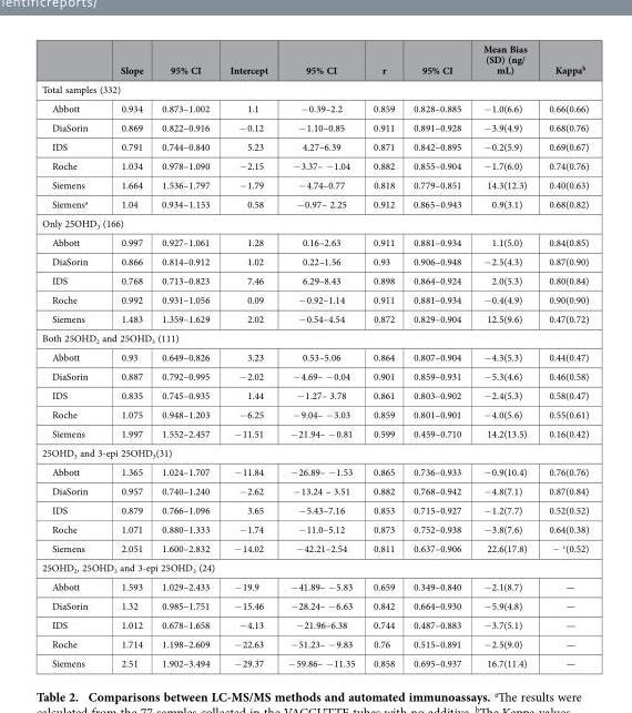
<table><thead><tr><td></td><td>Slope</td><td>95% CI</td><td>Intercept</td><td>95% CI</td><td>r</td><td>95% CI</td><td>Mean Bias (SD) (ng/ mL)</td><td>Kappa<sup>b</sup></td></tr></thead><tbody><tr><td colspan="9">Total samples (332)</td></tr><tr><td>Abbott</td><td>0.934</td><td>0.873–1.002</td><td>1.1</td><td>− 0.39–2.2</td><td>0.859</td><td>0.828–0.885</td><td>− 1.0(6.6)</td><td>0.66(0.66)</td></tr><tr><td>DiaSorin</td><td>0.869</td><td>0.822–0.916</td><td>− 0.12</td><td>− 1.10–0.85</td><td>0.911</td><td>0.891–0.928</td><td>− 3.9(4.9)</td><td>0.68(0.76)</td></tr><tr><td>IDS</td><td>0.791</td><td>0.744–0.840</td><td>5.23</td><td>4.27–6.39</td><td>0.871</td><td>0.842–0.895</td><td>− 0.2(5.9)</td><td>0.69(0.67)</td></tr><tr><td>Roche</td><td>1.034</td><td>0.978–1.090</td><td>− 2.15</td><td>− 3.37– − 1.04</td><td>0.882</td><td>0.855–0.904</td><td>− 1.7(6.0)</td><td>0.74(0.76)</td></tr><tr><td>Siemens</td><td>1.664</td><td>1.536–1.797</td><td>− 1.79</td><td>− 4.74–0.77</td><td>0.818</td><td>0.779–0.851</td><td>14.3(12.3)</td><td>0.40(0.63)</td></tr><tr><td>Siemens<sup>a</sup></td><td>1.04</td><td>0.934~1.153</td><td>0.58</td><td>− 0.97~ 2.25</td><td>0.912</td><td>0.865~0.943</td><td>0.9(3.1)</td><td>0.68(0.82)</td></tr><tr><td colspan="9">Only 25OHD<sub>3</sub> (166)</td></tr><tr><td>Abbott</td><td>0.997</td><td>0.927–1.061</td><td>1.28</td><td>0.16–2.63</td><td>0.911</td><td>0.881–0.934</td><td>1.1(5.0)</td><td>0.84(0.85)</td></tr><tr><td>DiaSorin</td><td>0.866</td><td>0.814–0.912</td><td>1.02</td><td>0.22–1.56</td><td>0.93</td><td>0.906–0.948</td><td>− 2.5(4.3)</td><td>0.87(0.90)</td></tr><tr><td>IDS</td><td>0.768</td><td>0.713–0.823</td><td>7.46</td><td>6.29–8.43</td><td>0.898</td><td>0.864–0.924</td><td>2.0(5.3)</td><td>0.80(0.84)</td></tr><tr><td>Roche</td><td>0.992</td><td>0.931–1.056</td><td>0.09</td><td>− 0.92–1.14</td><td>0.911</td><td>0.881–0.934</td><td>− 0.4(4.9)</td><td>0.90(0.90)</td></tr><tr><td>Siemens</td><td>1.483</td><td>1.359–1.629</td><td>2.02</td><td>− 0.54–4.54</td><td>0.872</td><td>0.829–0.904</td><td>12.5(9.6)</td><td>0.47(0.72)</td></tr><tr><td colspan="9">Both 25OHD<sub>2</sub> and 25OHD<sub>3</sub> (111)</td></tr><tr><td>Abbott</td><td>0.93</td><td>0.649–0.826</td><td>3.23</td><td>0.53–5.06</td><td>0.864</td><td>0.807–0.904</td><td>− 4.3(5.3)</td><td>0.44(0.47)</td></tr><tr><td>DiaSorin</td><td>0.887</td><td>0.792–0.995</td><td>− 2.02</td><td>− 4.69– − 0.04</td><td>0.901</td><td>0.859–0.931</td><td>− 5.3(4.6)</td><td>0.46(0.58)</td></tr><tr><td>IDS</td><td>0.835</td><td>0.745–0.935</td><td>1.44</td><td>− 1.27– 3.78</td><td>0.861</td><td>0.803–0.902</td><td>− 2.4(5.3)</td><td>0.58(0.47)</td></tr><tr><td>Roche</td><td>1.075</td><td>0.948–1.203</td><td>− 6.25</td><td>− 9.04– − 3.03</td><td>0.859</td><td>0.801–0.901</td><td>− 4.0(5.6)</td><td>0.55(0.61)</td></tr><tr><td>Siemens</td><td>1.997</td><td>1.552–2.457</td><td>− 11.51</td><td>− 21.94– − 0.81</td><td>0.599</td><td>0.459–0.710</td><td>14.2(13.5)</td><td>0.16(0.42)</td></tr><tr><td colspan="9">25OHD<sub>3</sub> and 3-epi 25OHD<sub>3</sub>(31)</td></tr><tr><td>Abbott</td><td>1.365</td><td>1.024–1.707</td><td>− 11.84</td><td>− 26.89– − 1.53</td><td>0.865</td><td>0.736–0.933</td><td>− 0.9(10.4)</td><td>0.76(0.76)</td></tr><tr><td>DiaSorin</td><td>0.957</td><td>0.740–1.240</td><td>− 2.62</td><td>− 13.24 – 3.51</td><td>0.882</td><td>0.768–0.942</td><td>− 4.8(7.1)</td><td>0.87(0.84)</td></tr><tr><td>IDS</td><td>0.879</td><td>0.766–1.096</td><td>3.65</td><td>− 5.43–7.16</td><td>0.853</td><td>0.715–0.927</td><td>− 1.2(7.7)</td><td>0.52(0.52)</td></tr><tr><td>Roche</td><td>1.071</td><td>0.880–1.333</td><td>− 1.74</td><td>− 11.0–5.12</td><td>0.873</td><td>0.752–0.938</td><td>− 3.8(7.6)</td><td>0.64(0.38)</td></tr><tr><td>Siemens</td><td>2.051</td><td>1.600–2.832</td><td>− 14.02</td><td>− 42.21–2.54</td><td>0.811</td><td>0.637–0.906</td><td>22.6(17.8)</td><td>− c(0.52)</td></tr><tr><td colspan="9">25OHD<sub>2</sub>, 25OHD<sub>3</sub> and 3-epi 25OHD<sub>3</sub> (24)</td></tr><tr><td>Abbott</td><td>1.593</td><td>1.029–2.433</td><td>− 19.9</td><td>− 41.89– − 5.83</td><td>0.659</td><td>0.349–0.840</td><td>− 2.1(8.7)</td><td>—</td></tr><tr><td>DiaSorin</td><td>1.32</td><td>0.985–1.751</td><td>− 15.46</td><td>− 28.24– − 6.63</td><td>0.842</td><td>0.664–0.930</td><td>− 5.9(4.8)</td><td>—</td></tr><tr><td>IDS</td><td>1.012</td><td>0.678–1.658</td><td>− 4.13</td><td>− 21.96–6.38</td><td>0.744</td><td>0.487–0.883</td><td>− 3.7(5.1)</td><td>—</td></tr><tr><td>Roche</td><td>1.714</td><td>1.198–2.609</td><td>− 22.63</td><td>− 51.23– − 9.83</td><td>0.76</td><td>0.515–0.891</td><td>− 2.5(9.0)</td><td>—</td></tr><tr><td>Siemens</td><td>2.51</td><td>1.902–3.494</td><td>− 29.37</td><td>− 59.86– − 11.35</td><td>0.858</td><td>0.695–0.937</td><td>16.7(11.4)</td><td>—</td></tr></tbody></table>